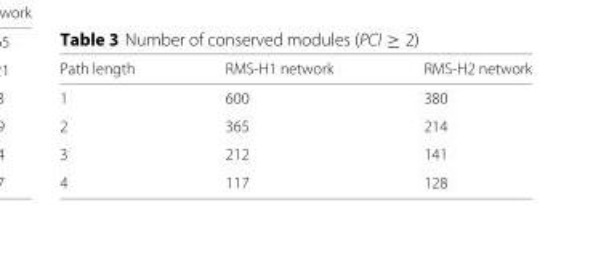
<table><thead><tr><td>Path length</td><td>RMS-H1 network</td><td>RMS-H2 network</td></tr></thead><tbody><tr><td>1</td><td>600</td><td>380</td></tr><tr><td>2</td><td>365</td><td>214</td></tr><tr><td>3</td><td>212</td><td>141</td></tr><tr><td>4</td><td>117</td><td>128</td></tr></tbody></table>